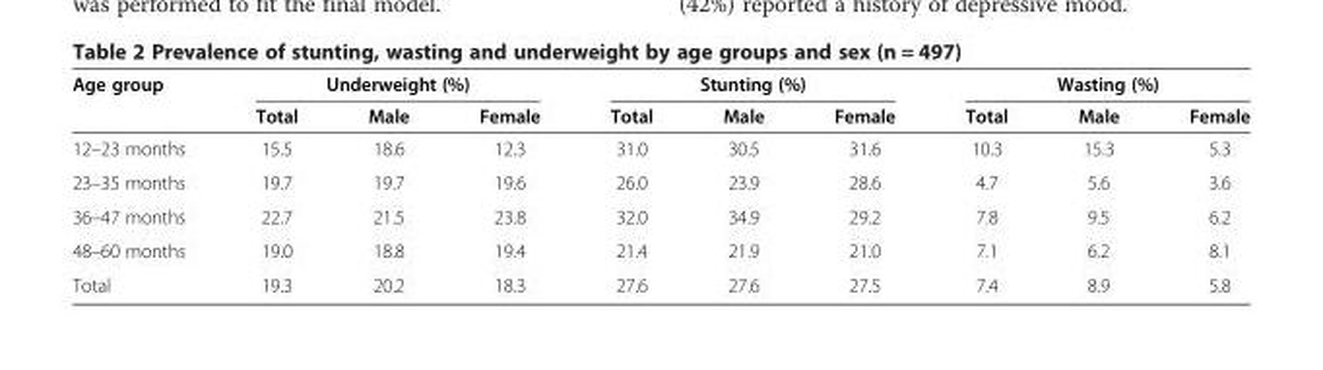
<table><thead><tr><td rowspan="2">Age group</td><td colspan="3">Underweight (%)</td><td colspan="3">Stunting (%)</td><td colspan="3">Wasting (%)</td></tr><tr><td>Total</td><td>Male</td><td>Female</td><td>Total</td><td>Male</td><td>Female</td><td>Total</td><td>Male</td><td>Female</td></tr></thead><tbody><tr><td>12–23 months</td><td>15.5</td><td>18.6</td><td>12.3</td><td>31.0</td><td>30.5</td><td>31.6</td><td>10.3</td><td>15.3</td><td>5.3</td></tr><tr><td>23–35 months</td><td>19.7</td><td>19.7</td><td>19.6</td><td>26.0</td><td>23.9</td><td>28.6</td><td>4.7</td><td>5.6</td><td>3.6</td></tr><tr><td>36–47 months</td><td>22.7</td><td>21.5</td><td>23.8</td><td>32.0</td><td>34.9</td><td>29.2</td><td>7.8</td><td>9.5</td><td>6.2</td></tr><tr><td>48–60 months</td><td>19.0</td><td>18.8</td><td>19.4</td><td>21.4</td><td>21.9</td><td>21.0</td><td>7.1</td><td>6.2</td><td>8.1</td></tr><tr><td>Total</td><td>19.3</td><td>20.2</td><td>18.3</td><td>27.6</td><td>27.6</td><td>27.5</td><td>7.4</td><td>8.9</td><td>5.8</td></tr></tbody></table>